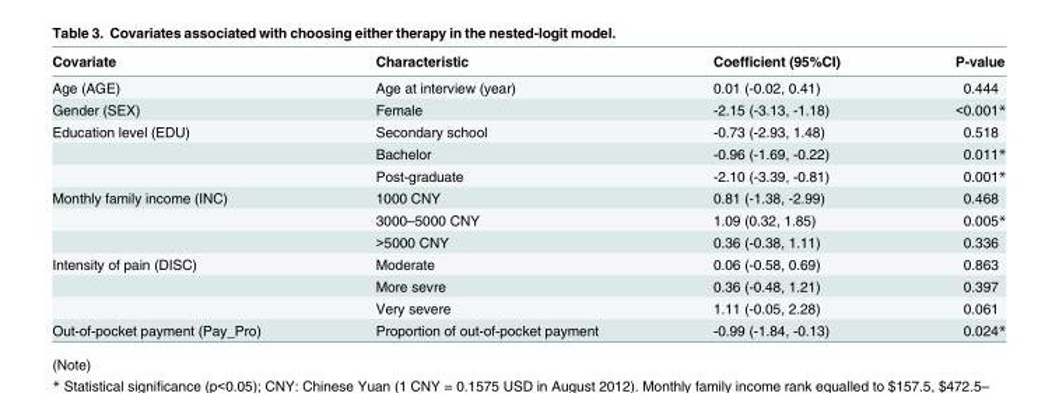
<table><thead><tr><td>Covariate</td><td>Characteristic</td><td>Coefficient (95%CI)</td><td>P-value</td></tr></thead><tbody><tr><td>Age (AGE)</td><td>Age at interview (year)</td><td>0.01 (-0.02, 0.41)</td><td>0.444</td></tr><tr><td>Gender (SEX)</td><td>Female</td><td>-2.15 (-3.13, -1.18)</td><td>&lt;0.001*</td></tr><tr><td rowspan="3">Education level (EDU)</td><td>Secondary school</td><td>-0.73 (-2.93, 1.48)</td><td>0.518</td></tr><tr><td>Bachelor</td><td>-0.96 (-1.69, -0.22)</td><td>0.011*</td></tr><tr><td>Post-graduate</td><td>-2.10 (-3.39, -0.81)</td><td>0.001*</td></tr><tr><td rowspan="3">Monthly family income (INC)</td><td>1000 CNY</td><td>0.81 (-1.38, -2.99)</td><td>0.468</td></tr><tr><td>3000–5000 CNY</td><td>1.09 (0.32, 1.85)</td><td>0.005*</td></tr><tr><td>&gt;5000 CNY</td><td>0.36 (-0.38, 1.11)</td><td>0.336</td></tr><tr><td rowspan="3">Intensity of pain (DISC)</td><td>Moderate</td><td>0.06 (-0.58, 0.69)</td><td>0.863</td></tr><tr><td>More sevre</td><td>0.36 (-0.48, 1.21)</td><td>0.397</td></tr><tr><td>Very severe</td><td>1.11 (-0.05, 2.28)</td><td>0.061</td></tr><tr><td>Out-of-pocket payment (Pay_Pro)</td><td>Proportion of out-of-pocket payment</td><td>-0.99 (-1.84, -0.13)</td><td>0.024*</td></tr></tbody></table>